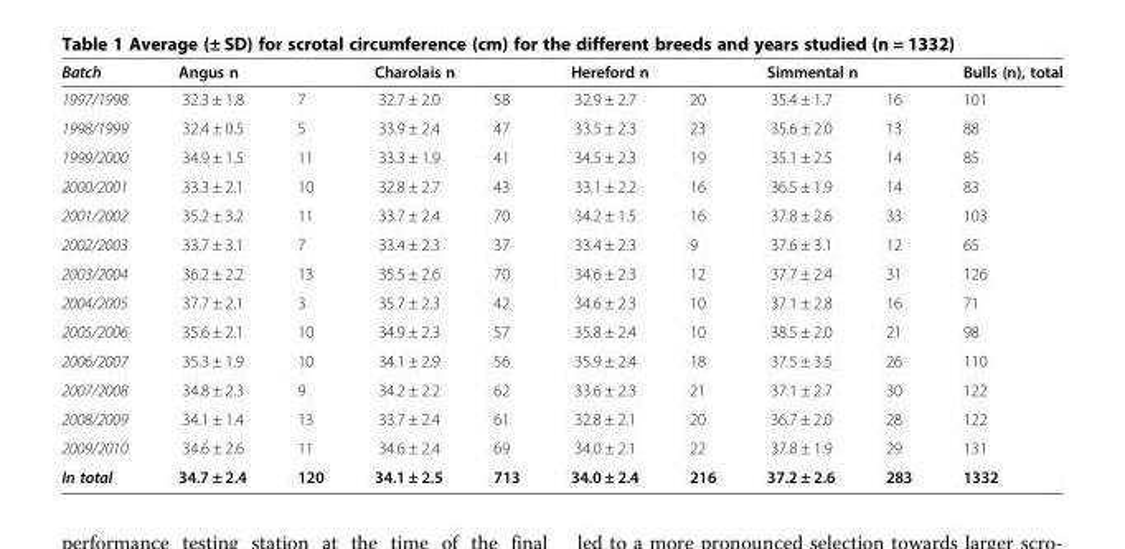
<table><thead><tr><td>Batch</td><td>Angus n</td><td></td><td>Charolais n</td><td></td><td>Hereford n</td><td></td><td>Simmental n</td><td></td><td>Bulls (n), total</td></tr></thead><tbody><tr><td>1997/1998</td><td>32.3 ± 1.8</td><td>7</td><td>32.7 ± 2.0</td><td>58</td><td>32.9 ± 2.7</td><td>20</td><td>35.4 ± 1.7</td><td>16</td><td>101</td></tr><tr><td>1998/1999</td><td>32.4 ± 0.5</td><td>5</td><td>33.9 ± 2.4</td><td>47</td><td>33.5 ± 2.3</td><td>23</td><td>35.6 ± 2.0</td><td>13</td><td>88</td></tr><tr><td>1999/2000</td><td>34.9 ± 1.5</td><td>11</td><td>33.3 ± 1.9</td><td>41</td><td>34.5 ± 2.3</td><td>19</td><td>35.1 ± 2.5</td><td>14</td><td>85</td></tr><tr><td>2000/2001</td><td>33.3 ± 2.1</td><td>10</td><td>32.8 ± 2.7</td><td>43</td><td>33.1 ± 2.2</td><td>16</td><td>36.5 ± 1.9</td><td>14</td><td>83</td></tr><tr><td>2001/2002</td><td>35.2 ± 3.2</td><td>11</td><td>33.7 ± 2.4</td><td>70</td><td>34.2 ± 1.5</td><td>16</td><td>37.8 ± 2.6</td><td>33</td><td>103</td></tr><tr><td>2002/2003</td><td>33.7 ± 3.1</td><td>7</td><td>33.4 ± 2.3</td><td>37</td><td>33.4 ± 2.3</td><td>9</td><td>37.6 ± 3.1</td><td>12</td><td>65</td></tr><tr><td>2003/2004</td><td>36.2 ± 2.2</td><td>13</td><td>35.5 ± 2.6</td><td>70</td><td>34.6 ± 2.3</td><td>12</td><td>37.7 ± 2.4</td><td>31</td><td>126</td></tr><tr><td>2004/2005</td><td>37.7 ± 2.1</td><td>3</td><td>35.7 ± 2.3</td><td>42</td><td>34.6 ± 2.3</td><td>10</td><td>37.1 ± 2.8</td><td>16</td><td>71</td></tr><tr><td>2005/2006</td><td>35.6 ± 2.1</td><td>10</td><td>34.9 ± 2.3</td><td>57</td><td>35.8 ± 2.4</td><td>10</td><td>38.5 ± 2.0</td><td>21</td><td>98</td></tr><tr><td>2006/2007</td><td>35.3 ± 1.9</td><td>10</td><td>34.1 ± 2.9</td><td>56</td><td>35.9 ± 2.4</td><td>18</td><td>37.5 ± 3.5</td><td>26</td><td>110</td></tr><tr><td>2007/2008</td><td>34.8 ± 2.3</td><td>9</td><td>34.2 ± 2.2</td><td>62</td><td>33.6 ± 2.3</td><td>21</td><td>37.1 ± 2.7</td><td>30</td><td>122</td></tr><tr><td>2008/2009</td><td>34.1 ± 1.4</td><td>13</td><td>33.7 ± 2.4</td><td>61</td><td>32.8 ± 2.1</td><td>20</td><td>36.7 ± 2.0</td><td>28</td><td>122</td></tr><tr><td>2009/2010</td><td>34.6 ± 2.6</td><td>11</td><td>34.6 ± 2.4</td><td>69</td><td>34.0 ± 2.1</td><td>22</td><td>37.8 ± 1.9</td><td>29</td><td>131</td></tr><tr><td>In total</td><td>34.7 ± 2.4</td><td>120</td><td>34.1 ± 2.5</td><td>713</td><td>34.0 ± 2.4</td><td>216</td><td>37.2 ± 2.6</td><td>283</td><td>1332</td></tr></tbody></table>